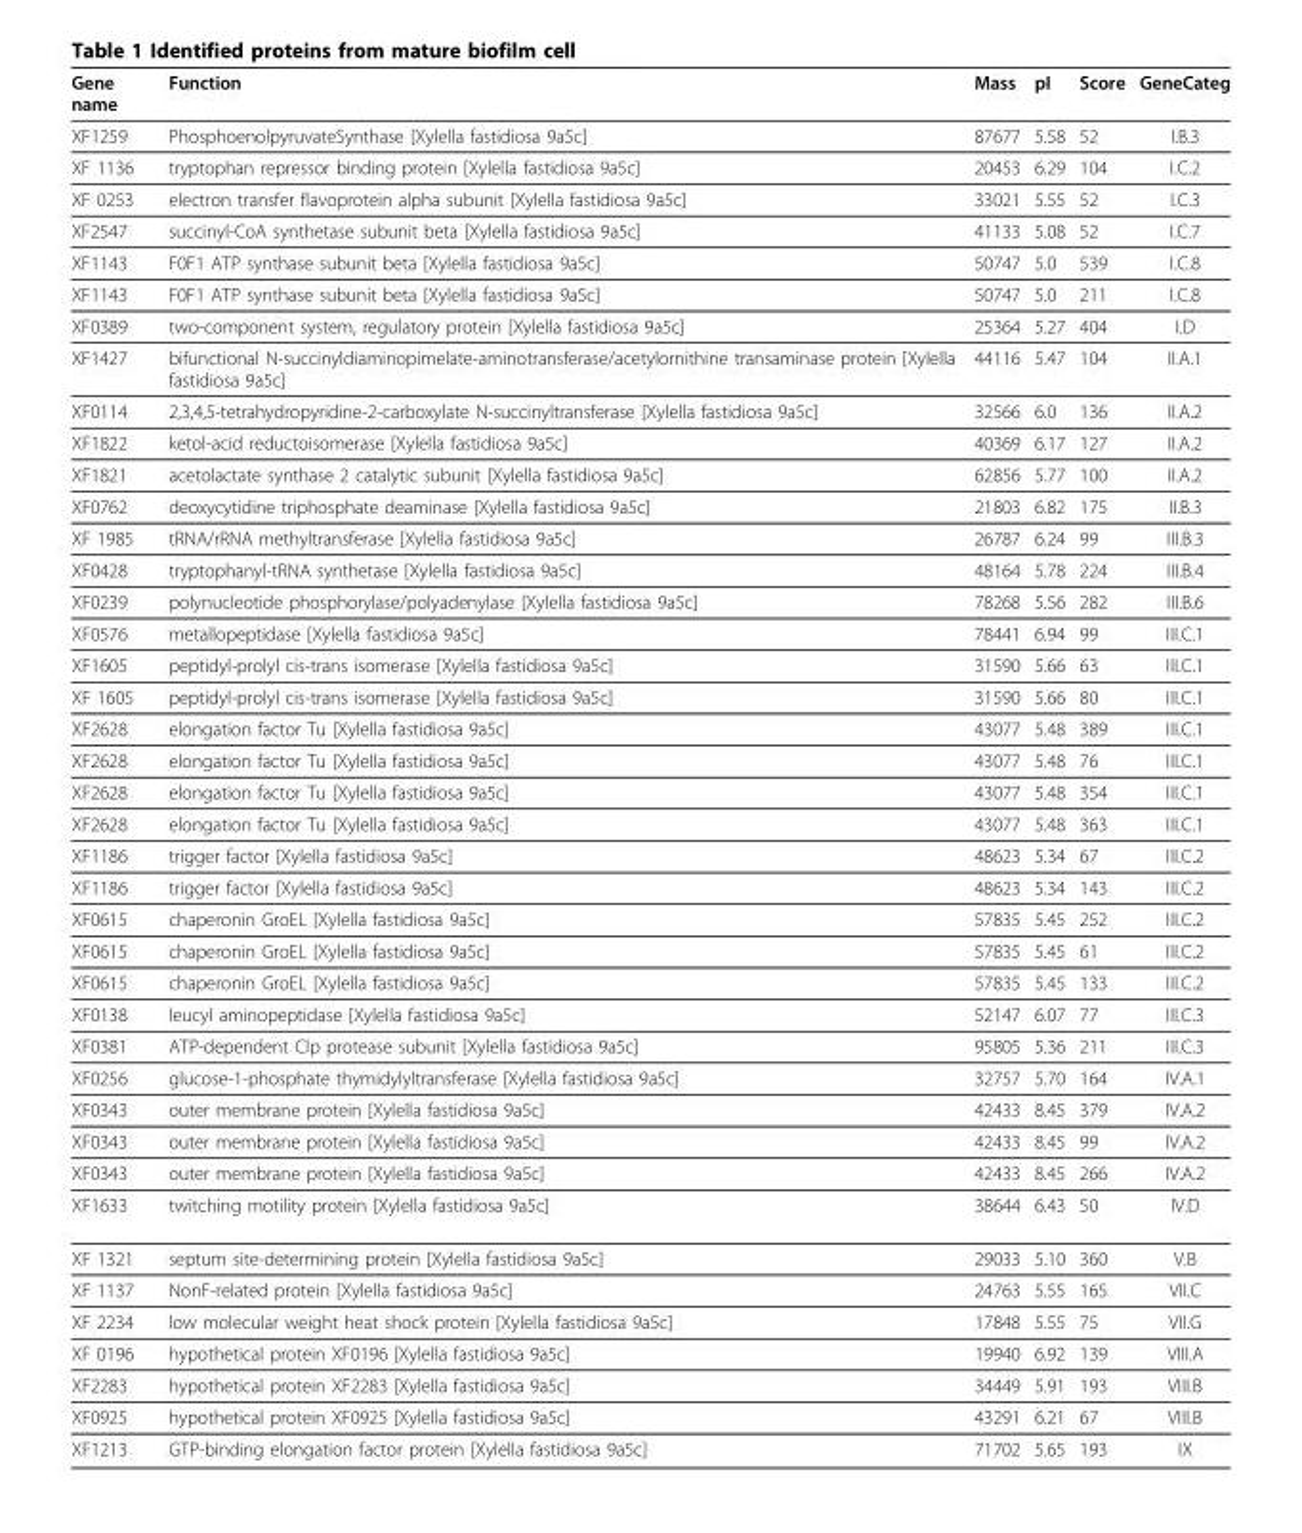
<table><thead><tr><td>Gene name</td><td>Function</td><td>Mass</td><td>pI</td><td>Score</td><td>GeneCateg</td></tr></thead><tbody><tr><td>XF1259</td><td>PhosphoenolpyruvateSynthase [Xylella fastidiosa 9a5c]</td><td>87677</td><td>5.58</td><td>52</td><td>I.B.3</td></tr><tr><td>XF 1136</td><td>tryptophan repressor binding protein [Xylella fastidiosa 9a5c]</td><td>20453</td><td>6.29</td><td>104</td><td>I.C.2</td></tr><tr><td>XF 0253</td><td>electron transfer flavoprotein alpha subunit [Xylella fastidiosa 9a5c]</td><td>33021</td><td>5.55</td><td>52</td><td>I.C.3</td></tr><tr><td>XF2547</td><td>succinyl-CoA synthetase subunit beta [Xylella fastidiosa 9a5c]</td><td>41133</td><td>5.08</td><td>52</td><td>I.C.7</td></tr><tr><td>XF1143</td><td>F0F1 ATP synthase subunit beta [Xylella fastidiosa 9a5c]</td><td>50747</td><td>5.0</td><td>539</td><td>I.C.8</td></tr><tr><td>XF1143</td><td>F0F1 ATP synthase subunit beta [Xylella fastidiosa 9a5c]</td><td>50747</td><td>5.0</td><td>211</td><td>I.C.8</td></tr><tr><td>XF0389</td><td>two-component system, regulatory protein [Xylella fastidiosa 9a5c]</td><td>25364</td><td>5.27</td><td>404</td><td>I.D</td></tr><tr><td>XF1427</td><td>bifunctional N-succinyldiaminopimelate-aminotransferase/acetylornithine transaminase protein [Xylella fastidiosa 9a5c]</td><td>44116</td><td>5.47</td><td>104</td><td>II.A.1</td></tr><tr><td>XF0114</td><td>2,3,4,5-tetrahydropyridine-2-carboxylate N-succinyltransferase [Xylella fastidiosa 9a5c]</td><td>32566</td><td>6.0</td><td>136</td><td>II.A.2</td></tr><tr><td>XF1822</td><td>ketol-acid reductoisomerase [Xylella fastidiosa 9a5c]</td><td>40369</td><td>6.17</td><td>127</td><td>II.A.2</td></tr><tr><td>XF1821</td><td>acetolactate synthase 2 catalytic subunit [Xylella fastidiosa 9a5c]</td><td>62856</td><td>5.77</td><td>100</td><td>II.A.2</td></tr><tr><td>XF0762</td><td>deoxycytidine triphosphate deaminase [Xylella fastidiosa 9a5c]</td><td>21803</td><td>6.82</td><td>175</td><td>II.B.3</td></tr><tr><td>XF 1985</td><td>tRNA/rRNA methyltransferase [Xylella fastidiosa 9a5c]</td><td>26787</td><td>6.24</td><td>99</td><td>III.B.3</td></tr><tr><td>XF0428</td><td>tryptophanyl-tRNA synthetase [Xylella fastidiosa 9a5c]</td><td>48164</td><td>5.78</td><td>224</td><td>III.B.4</td></tr><tr><td>XF0239</td><td>polynucleotide phosphorylase/polyadenylase [Xylella fastidiosa 9a5c]</td><td>78268</td><td>5.56</td><td>282</td><td>III.B.6</td></tr><tr><td>XF0576</td><td>metallopeptidase [Xylella fastidiosa 9a5c]</td><td>78441</td><td>6.94</td><td>99</td><td>III.C.1</td></tr><tr><td>XF1605</td><td>peptidyl-prolyl cis-trans isomerase [Xylella fastidiosa 9a5c]</td><td>31590</td><td>5.66</td><td>63</td><td>III.C.1</td></tr><tr><td>XF 1605</td><td>peptidyl-prolyl cis-trans isomerase [Xylella fastidiosa 9a5c]</td><td>31590</td><td>5.66</td><td>80</td><td>III.C.1</td></tr><tr><td>XF2628</td><td>elongation factor Tu [Xylella fastidiosa 9a5c]</td><td>43077</td><td>5.48</td><td>389</td><td>III.C.1</td></tr><tr><td>XF2628</td><td>elongation factor Tu [Xylella fastidiosa 9a5c]</td><td>43077</td><td>5.48</td><td>76</td><td>III.C.1</td></tr><tr><td>XF2628</td><td>elongation factor Tu [Xylella fastidiosa 9a5c]</td><td>43077</td><td>5.48</td><td>354</td><td>III.C.1</td></tr><tr><td>XF2628</td><td>elongation factor Tu [Xylella fastidiosa 9a5c]</td><td>43077</td><td>5.48</td><td>363</td><td>III.C.1</td></tr><tr><td>XF1186</td><td>trigger factor [Xylella fastidiosa 9a5c]</td><td>48623</td><td>5.34</td><td>67</td><td>III.C.2</td></tr><tr><td>XF1186</td><td>trigger factor [Xylella fastidiosa 9a5c]</td><td>48623</td><td>5.34</td><td>143</td><td>III.C.2</td></tr><tr><td>XF0615</td><td>chaperonin GroEL [Xylella fastidiosa 9a5c]</td><td>57835</td><td>5.45</td><td>252</td><td>III.C.2</td></tr><tr><td>XF0615</td><td>chaperonin GroEL [Xylella fastidiosa 9a5c]</td><td>57835</td><td>5.45</td><td>61</td><td>III.C.2</td></tr><tr><td>XF0615</td><td>chaperonin GroEL [Xylella fastidiosa 9a5c]</td><td>57835</td><td>5.45</td><td>133</td><td>III.C.2</td></tr><tr><td>XF0138</td><td>leucyl aminopeptidase [Xylella fastidiosa 9a5c]</td><td>52147</td><td>6.07</td><td>77</td><td>III.C.3</td></tr><tr><td>XF0381</td><td>ATP-dependent Clp protease subunit [Xylella fastidiosa 9a5c]</td><td>95805</td><td>5.36</td><td>211</td><td>III.C.3</td></tr><tr><td>XF0256</td><td>glucose-1-phosphate thymidylyltransferase [Xylella fastidiosa 9a5c]</td><td>32757</td><td>5.70</td><td>164</td><td>IV.A.1</td></tr><tr><td>XF0343</td><td>outer membrane protein [Xylella fastidiosa 9a5c]</td><td>42433</td><td>8.45</td><td>379</td><td>IV.A.2</td></tr><tr><td>XF0343</td><td>outer membrane protein [Xylella fastidiosa 9a5c]</td><td>42433</td><td>8.45</td><td>99</td><td>IV.A.2</td></tr><tr><td>XF0343</td><td>outer membrane protein [Xylella fastidiosa 9a5c]</td><td>42433</td><td>8.45</td><td>266</td><td>IV.A.2</td></tr><tr><td>XF1633</td><td>twitching motility protein [Xylella fastidiosa 9a5c]</td><td>38644</td><td>6.43</td><td>50</td><td>IV.D</td></tr><tr><td>XF 1321</td><td>septum site-determining protein [Xylella fastidiosa 9a5c]</td><td>29033</td><td>5.10</td><td>360</td><td>V.B</td></tr><tr><td>XF 1137</td><td>NonF-related protein [Xylella fastidiosa 9a5c]</td><td>24763</td><td>5.55</td><td>165</td><td>VII.C</td></tr><tr><td>XF 2234</td><td>low molecular weight heat shock protein [Xylella fastidiosa 9a5c]</td><td>17848</td><td>5.55</td><td>75</td><td>VII.G</td></tr><tr><td>XF 0196</td><td>hypothetical protein XF0196 [Xylella fastidiosa 9a5c]</td><td>19940</td><td>6.92</td><td>139</td><td>VIII.A</td></tr><tr><td>XF2283</td><td>hypothetical protein XF2283 [Xylella fastidiosa 9a5c]</td><td>34449</td><td>5.91</td><td>193</td><td>VIII.B</td></tr><tr><td>XF0925</td><td>hypothetical protein XF0925 [Xylella fastidiosa 9a5c]</td><td>43291</td><td>6.21</td><td>67</td><td>VIII.B</td></tr><tr><td>XF1213</td><td>GTP-binding elongation factor protein [Xylella fastidiosa 9a5c]</td><td>71702</td><td>5.65</td><td>193</td><td>IX</td></tr></tbody></table>